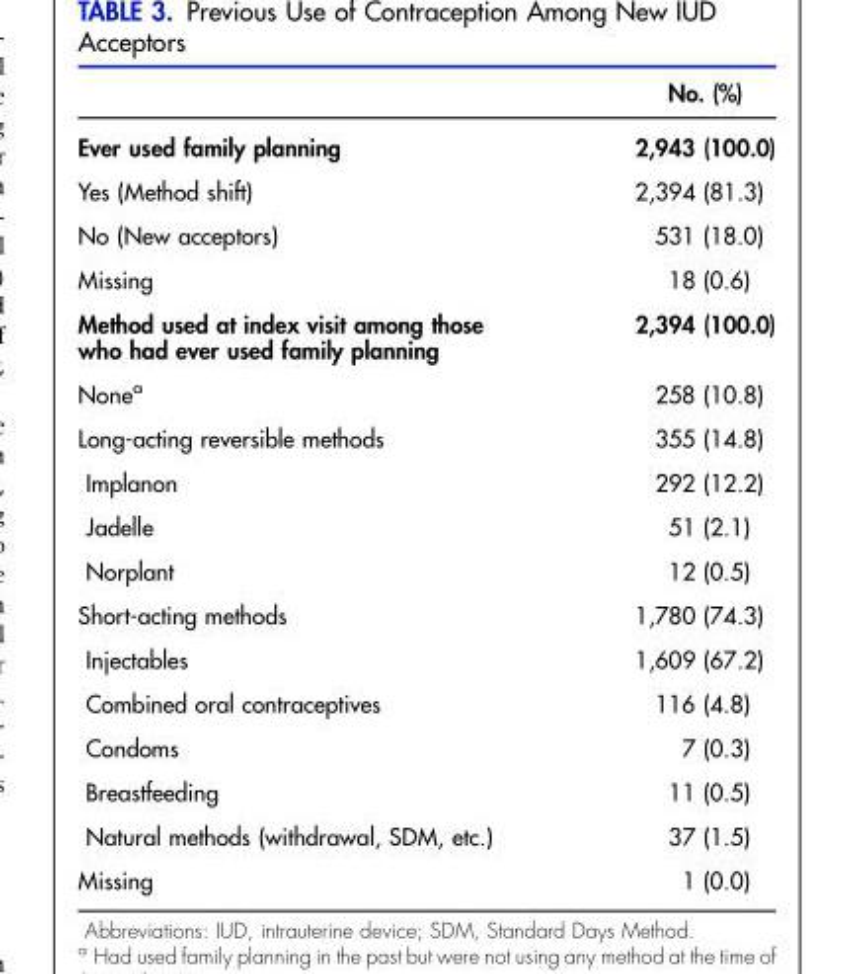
<table><thead><tr><td></td><td>No. (%)</td></tr></thead><tbody><tr><td>Ever used family planning</td><td>2,943 (100.0)</td></tr><tr><td>Yes (Method shift)</td><td>2,394 (81.3)</td></tr><tr><td>No (New acceptors)</td><td>531 (18.0)</td></tr><tr><td>Missing</td><td>18 (0.6)</td></tr><tr><td>Method used at index visit among those who had ever used family planning</td><td>2,394 (100.0)</td></tr><tr><td>None<sup>a</sup></td><td>258 (10.8)</td></tr><tr><td>Long-acting reversible methods</td><td>355 (14.8)</td></tr><tr><td>Implanon</td><td>292 (12.2)</td></tr><tr><td>Jadelle</td><td>51 (2.1)</td></tr><tr><td>Norplant</td><td>12 (0.5)</td></tr><tr><td>Short-acting methods</td><td>1,780 (74.3)</td></tr><tr><td>Injectables</td><td>1,609 (67.2)</td></tr><tr><td>Combined oral contraceptives</td><td>116 (4.8)</td></tr><tr><td>Condoms</td><td>7 (0.3)</td></tr><tr><td>Breastfeeding</td><td>11 (0.5)</td></tr><tr><td>Natural methods (withdrawal, SDM, etc.)</td><td>37 (1.5)</td></tr><tr><td>Missing</td><td>1 (0.0)</td></tr></tbody></table>